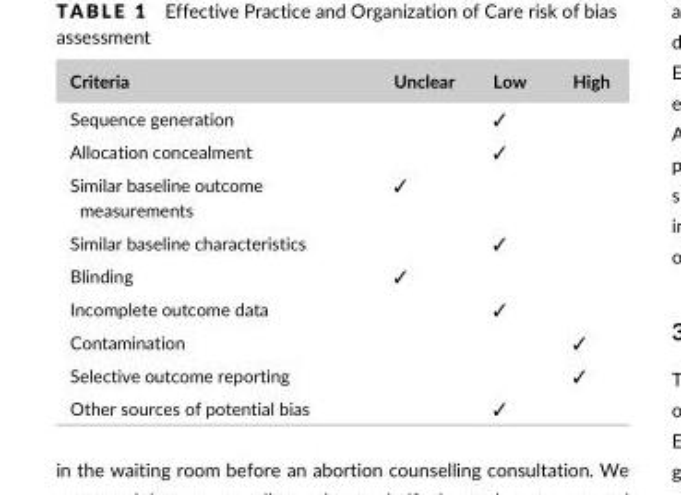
<table><thead><tr><td>Criteria</td><td>Unclear</td><td>Low</td><td>High</td></tr></thead><tbody><tr><td>Sequence generation</td><td></td><td>✓</td><td></td></tr><tr><td>Allocation concealment</td><td></td><td>✓</td><td></td></tr><tr><td>Similar baseline outcome measurements</td><td>✓</td><td></td><td></td></tr><tr><td>Similar baseline characteristics</td><td></td><td>✓</td><td></td></tr><tr><td>Blinding</td><td>✓</td><td></td><td></td></tr><tr><td>Incomplete outcome data</td><td></td><td>✓</td><td></td></tr><tr><td>Contamination</td><td></td><td></td><td>✓</td></tr><tr><td>Selective outcome reporting</td><td></td><td></td><td>✓</td></tr><tr><td>Other sources of potential bias</td><td></td><td>✓</td><td></td></tr></tbody></table>